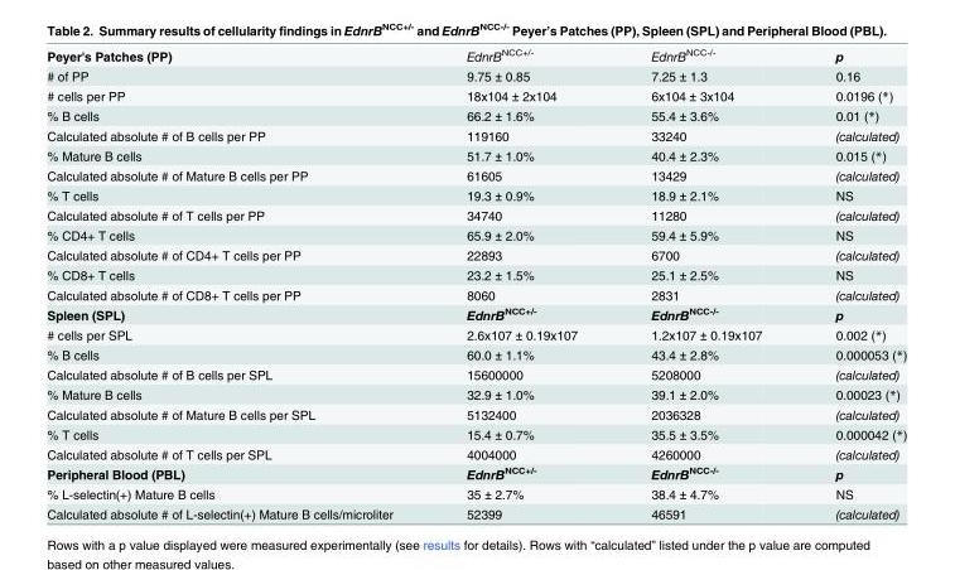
<table><tbody><tr><td>Peyer&#x27;s Patches (PP)</td><td>EdnrB<sup>NCC+/-</sup></td><td>EdnrB<sup>NCC-/-</sup></td><td>p</td></tr><tr><td># of PP</td><td>9.75 ± 0.85</td><td>7.25 ± 1.3</td><td>0.16</td></tr><tr><td># cells per PP</td><td>18x104 ± 2x104</td><td>6x104 ± 3x104</td><td>0.0196 (*)</td></tr><tr><td>% B cells</td><td>66.2 ± 1.6%</td><td>55.4 ± 3.6%</td><td>0.01 (*)</td></tr><tr><td>Calculated absolute # of B cells per PP</td><td>119160</td><td>33240</td><td>(calculated)</td></tr><tr><td>% Mature B cells</td><td>51.7 ± 1.0%</td><td>40.4 ± 2.3%</td><td>0.015 (*)</td></tr><tr><td>Calculated absolute # of Mature B cells per PP</td><td>61605</td><td>13429</td><td>(calculated)</td></tr><tr><td>% T cells</td><td>19.3 ± 0.9%</td><td>18.9 ± 2.1%</td><td>NS</td></tr><tr><td>Calculated absolute # of T cells per PP</td><td>34740</td><td>11280</td><td>(calculated)</td></tr><tr><td>% CD4+ T cells</td><td>65.9 ± 2.0%</td><td>59.4 ± 5.9%</td><td>NS</td></tr><tr><td>Calculated absolute # of CD4+ T cells per PP</td><td>22893</td><td>6700</td><td>(calculated)</td></tr><tr><td>% CD8+ T cells</td><td>23.2 ± 1.5%</td><td>25.1 ± 2.5%</td><td>NS</td></tr><tr><td>Calculated absolute # of CD8+ T cells per PP</td><td>8060</td><td>2831</td><td>(calculated)</td></tr><tr><td>Spleen (SPL)</td><td>EdnrB<sup>NCC+/-</sup></td><td>EdnrB<sup>NCC-/-</sup></td><td>p</td></tr><tr><td># cells per SPL</td><td>2.6x107 ± 0.19x107</td><td>1.2x107 ± 0.19x107</td><td>0.002 (*)</td></tr><tr><td>% B cells</td><td>60.0 ± 1.1%</td><td>43.4 ± 2.8%</td><td>0.000053 (*)</td></tr><tr><td>Calculated absolute # of B cells per SPL</td><td>15600000</td><td>5208000</td><td>(calculated)</td></tr><tr><td>% Mature B cells</td><td>32.9 ± 1.0%</td><td>39.1 ± 2.0%</td><td>0.00023 (*)</td></tr><tr><td>Calculated absolute # of Mature B cells per SPL</td><td>5132400</td><td>2036328</td><td>(calculated)</td></tr><tr><td>% T cells</td><td>15.4 ± 0.7%</td><td>35.5 ± 3.5%</td><td>0.000042 (*)</td></tr><tr><td>Calculated absolute # of T cells per SPL</td><td>4004000</td><td>4260000</td><td>(calculated)</td></tr><tr><td>Peripheral Blood (PBL)</td><td>EdnrB<sup>NCC+/-</sup></td><td>EdnrB<sup>NCC-/-</sup></td><td>p</td></tr><tr><td>% L-selectin(+) Mature B cells</td><td>35 ± 2.7%</td><td>38.4 ± 4.7%</td><td>NS</td></tr><tr><td>Calculated absolute # of L-selectin(+) Mature B cells/microliter</td><td>52399</td><td>46591</td><td>(calculated)</td></tr></tbody></table>